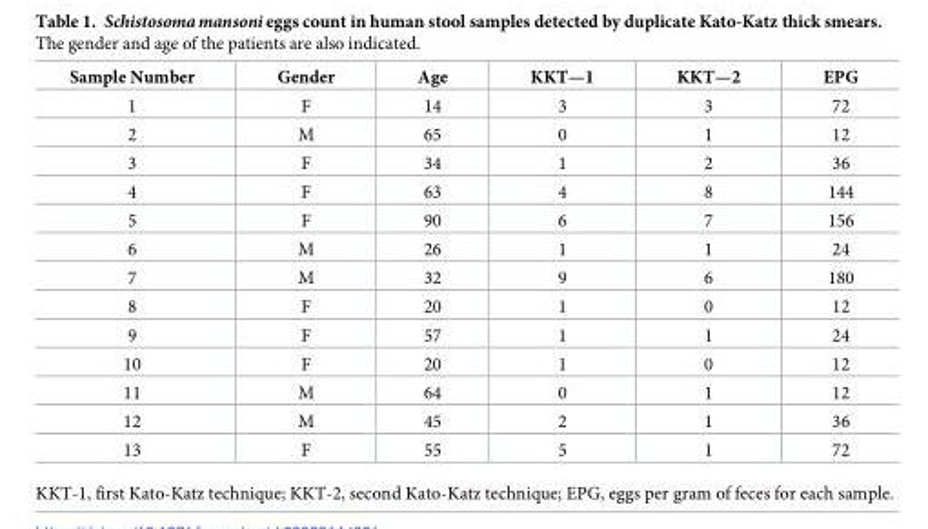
<table><thead><tr><td>Sample Number</td><td>Gender</td><td>Age</td><td>KKT—1</td><td>KKT—2</td><td>EPG</td></tr></thead><tbody><tr><td>1</td><td>F</td><td>14</td><td>3</td><td>3</td><td>72</td></tr><tr><td>2</td><td>M</td><td>65</td><td>0</td><td>1</td><td>12</td></tr><tr><td>3</td><td>F</td><td>34</td><td>1</td><td>2</td><td>36</td></tr><tr><td>4</td><td>F</td><td>63</td><td>4</td><td>8</td><td>144</td></tr><tr><td>5</td><td>F</td><td>90</td><td>6</td><td>7</td><td>156</td></tr><tr><td>6</td><td>M</td><td>26</td><td>1</td><td>1</td><td>24</td></tr><tr><td>7</td><td>M</td><td>32</td><td>9</td><td>6</td><td>180</td></tr><tr><td>8</td><td>F</td><td>20</td><td>1</td><td>0</td><td>12</td></tr><tr><td>9</td><td>F</td><td>57</td><td>1</td><td>1</td><td>24</td></tr><tr><td>10</td><td>F</td><td>20</td><td>1</td><td>0</td><td>12</td></tr><tr><td>11</td><td>M</td><td>64</td><td>0</td><td>1</td><td>12</td></tr><tr><td>12</td><td>M</td><td>45</td><td>2</td><td>1</td><td>36</td></tr><tr><td>13</td><td>F</td><td>55</td><td>5</td><td>1</td><td>72</td></tr></tbody></table>